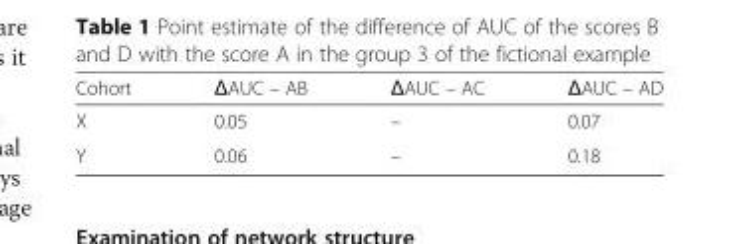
<table><thead><tr><td>Cohort</td><td>ΔAUC – AB</td><td>ΔAUC – AC</td><td>ΔAUC – AD</td></tr></thead><tbody><tr><td>X</td><td>0.05</td><td>–</td><td>0.07</td></tr><tr><td>Y</td><td>0.06</td><td>–</td><td>0.18</td></tr></tbody></table>